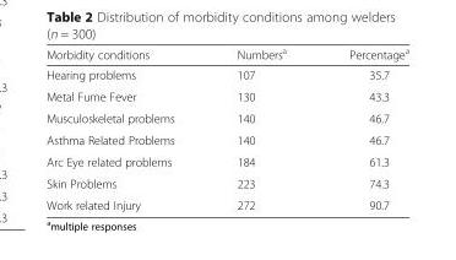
<table><thead><tr><td>Morbidity conditions</td><td>Numbers<sup>a</sup></td><td>Percentage<sup>a</sup></td></tr></thead><tbody><tr><td>Hearing problems</td><td>107</td><td>35.7</td></tr><tr><td>Metal Fume Fever</td><td>130</td><td>43.3</td></tr><tr><td>Musculoskeletal problems</td><td>140</td><td>46.7</td></tr><tr><td>Asthma Related Problems</td><td>140</td><td>46.7</td></tr><tr><td>Arc Eye related problems</td><td>184</td><td>61.3</td></tr><tr><td>Skin Problems</td><td>223</td><td>74.3</td></tr><tr><td>Work related Injury</td><td>272</td><td>90.7</td></tr></tbody></table>